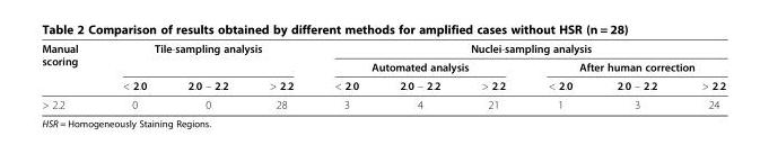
<table><thead><tr><td rowspan="3">Manual scoring</td><td rowspan="2" colspan="3">Tile-sampling analysis</td><td colspan="6">Nuclei-sampling analysis</td></tr><tr><td colspan="3">Automated analysis</td><td colspan="3">After human correction</td></tr><tr><td>&lt; 2.0</td><td>2.0 – 2.2</td><td>&gt; 2.2</td><td>&lt; 2.0</td><td>2.0 – 2.2</td><td>&gt; 2.2</td><td>&lt; 2.0</td><td>2.0 – 2.2</td><td>&gt; 2.2</td></tr></thead><tbody><tr><td>&gt; 2.2</td><td>0</td><td>0</td><td>28</td><td>3</td><td>4</td><td>21</td><td>1</td><td>3</td><td>24</td></tr></tbody></table>